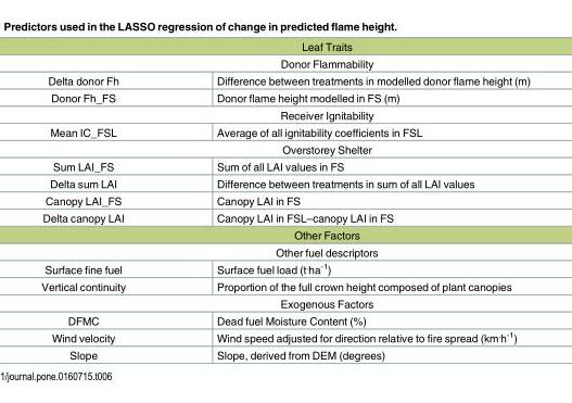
<table><tbody><tr><td colspan="2">Leaf Traits</td></tr><tr><td colspan="2">Donor Flammability</td></tr><tr><td>Delta donor Fh</td><td>Difference between treatments in modelled donor flame height (m)</td></tr><tr><td>Donor Fh_FS</td><td>Donor flame height modelled in FS (m)</td></tr><tr><td colspan="2">Receiver Ignitability</td></tr><tr><td>Mean IC_FSL</td><td>Average of all ignitability coefficients in FSL</td></tr><tr><td colspan="2">Overstorey Shelter</td></tr><tr><td>Sum LAI_FS</td><td>Sum of all LAI values in FS</td></tr><tr><td>Delta sum LAI</td><td>Difference between treatments in sum of all LAI values</td></tr><tr><td>Canopy LAI_FS</td><td>Canopy LAI in FS</td></tr><tr><td>Delta canopy LAI</td><td>Canopy LAI in FSL–canopy LAI in FS</td></tr><tr><td colspan="2">Other Factors</td></tr><tr><td colspan="2">Other fuel descriptors</td></tr><tr><td>Surface fine fuel</td><td>Surface fuel load (t.ha-1)</td></tr><tr><td>Vertical continuity</td><td>Proportion of the full crown height composed of plant canopies</td></tr><tr><td colspan="2">Exogenous Factors</td></tr><tr><td>DFMC</td><td>Dead fuel Moisture Content (%)</td></tr><tr><td>Wind velocity</td><td>Wind speed adjusted for direction relative to fire spread (km.h-1)</td></tr><tr><td>Slope</td><td>Slope, derived from DEM (degrees)</td></tr></tbody></table>